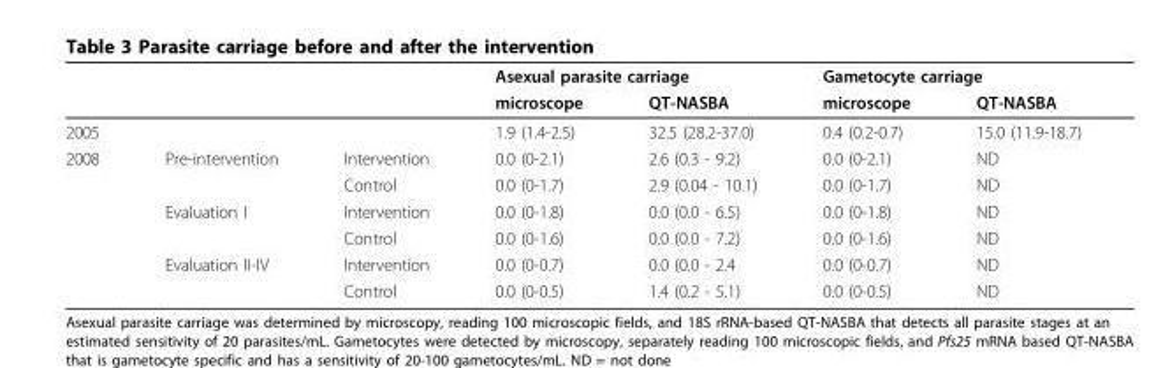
<table><thead><tr><td rowspan="2"></td><td rowspan="2"></td><td rowspan="2"></td><td colspan="2">Asexual parasite carriage</td><td colspan="2">Gametocyte carriage</td></tr><tr><td>microscope</td><td>QT-NASBA</td><td>microscope</td><td>QT-NASBA</td></tr></thead><tbody><tr><td>2005</td><td></td><td></td><td>1.9 (1.4-2.5)</td><td>32.5 (28.2-37.0)</td><td>0.4 (0.2-0.7)</td><td>15.0 (11.9-18.7)</td></tr><tr><td rowspan="6">2008</td><td>Pre-intervention</td><td>Intervention</td><td>0.0 (0-2.1)</td><td>2.6 (0.3 - 9.2)</td><td>0.0 (0-2.1)</td><td>ND</td></tr><tr><td></td><td>Control</td><td>0.0 (0-1.7)</td><td>2.9 (0.04 - 10.1)</td><td>0.0 (0-1.7)</td><td>ND</td></tr><tr><td>Evaluation I</td><td>Intervention</td><td>0.0 (0-1.8)</td><td>0.0 (0.0 - 6.5)</td><td>0.0 (0-1.8)</td><td>ND</td></tr><tr><td></td><td>Control</td><td>0.0 (0-1.6)</td><td>0.0 (0.0 - 7.2)</td><td>0.0 (0-1.6)</td><td>ND</td></tr><tr><td>Evaluation II-IV</td><td>Intervention</td><td>0.0 (0-0.7)</td><td>0.0 (0.0 - 2.4</td><td>0.0 (0-0.7)</td><td>ND</td></tr><tr><td></td><td>Control</td><td>0.0 (0-0.5)</td><td>1.4 (0.2 - 5.1)</td><td>0.0 (0-0.5)</td><td>ND</td></tr></tbody></table>